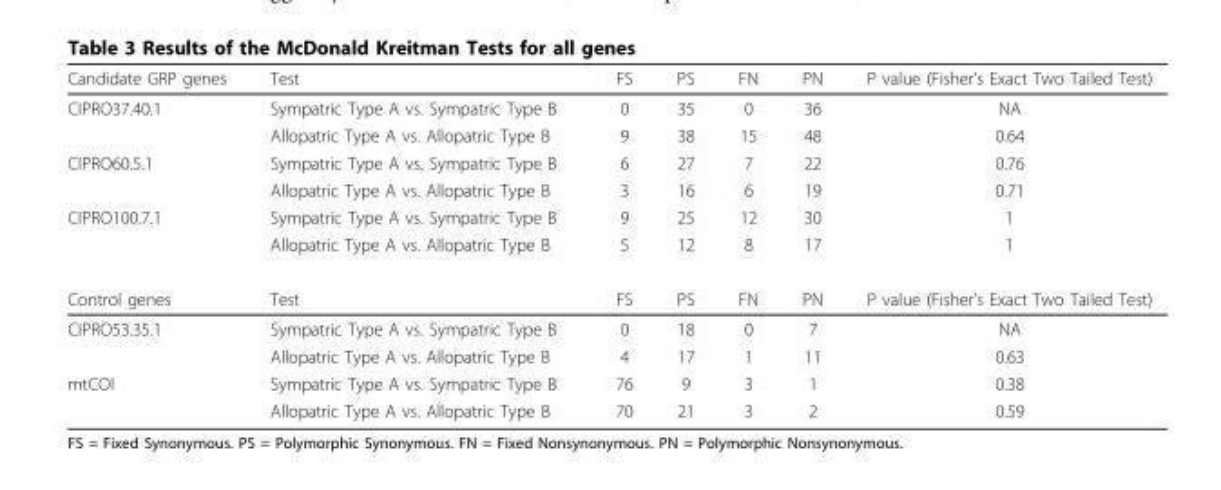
<table><thead><tr><td>Candidate GRP genes</td><td>Test</td><td>FS</td><td>PS</td><td>FN</td><td>PN</td><td>P value (Fisher’s Exact Two Tailed Test)</td></tr></thead><tbody><tr><td rowspan="2">CIPRO37.40.1</td><td>Sympatric Type A vs. Sympatric Type B</td><td>0</td><td>35</td><td>0</td><td>36</td><td>NA</td></tr><tr><td>Allopatric Type A vs. Allopatric Type B</td><td>9</td><td>38</td><td>15</td><td>48</td><td>0.64</td></tr><tr><td rowspan="2">CIPRO60.5.1</td><td>Sympatric Type A vs. Sympatric Type B</td><td>6</td><td>27</td><td>7</td><td>22</td><td>0.76</td></tr><tr><td>Allopatric Type A vs. Allopatric Type B</td><td>3</td><td>16</td><td>6</td><td>19</td><td>0.71</td></tr><tr><td rowspan="2">CIPRO100.7.1</td><td>Sympatric Type A vs. Sympatric Type B</td><td>9</td><td>25</td><td>12</td><td>30</td><td>1</td></tr><tr><td>Allopatric Type A vs. Allopatric Type B</td><td>5</td><td>12</td><td>8</td><td>17</td><td>1</td></tr><tr><td>Control genes</td><td>Test</td><td>FS</td><td>PS</td><td>FN</td><td>PN</td><td>P value (Fisher’s Exact Two Tailed Test)</td></tr><tr><td rowspan="2">CIPRO53.35.1</td><td>Sympatric Type A vs. Sympatric Type B</td><td>0</td><td>18</td><td>0</td><td>7</td><td>NA</td></tr><tr><td>Allopatric Type A vs. Allopatric Type B</td><td>4</td><td>17</td><td>1</td><td>11</td><td>0.63</td></tr><tr><td rowspan="2">mtCOI</td><td>Sympatric Type A vs. Sympatric Type B</td><td>76</td><td>9</td><td>3</td><td>1</td><td>0.38</td></tr><tr><td>Allopatric Type A vs. Allopatric Type B</td><td>70</td><td>21</td><td>3</td><td>2</td><td>0.59</td></tr></tbody></table>